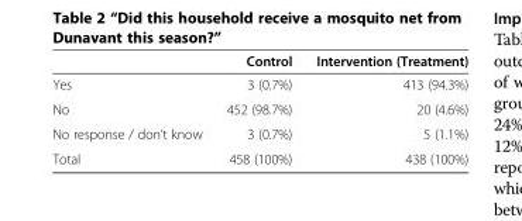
<table><thead><tr><td></td><td>Control</td><td>Intervention (Treatment)</td></tr></thead><tbody><tr><td>Yes</td><td>3 (0.7%)</td><td>413 (94.3%)</td></tr><tr><td>No</td><td>452 (98.7%)</td><td>20 (4.6%)</td></tr><tr><td>No response / don’t know</td><td>3 (0.7%)</td><td>5 (1.1%)</td></tr><tr><td>Total</td><td>458 (100%)</td><td>438 (100%)</td></tr></tbody></table>